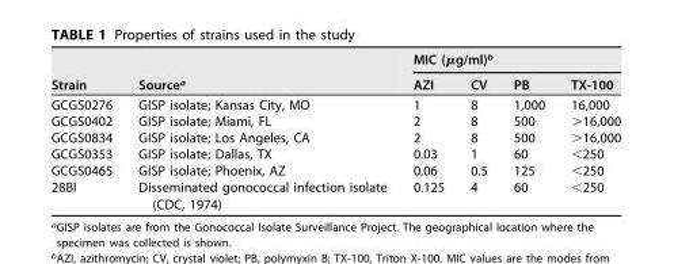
<table><thead><tr><td rowspan="2">Strain</td><td rowspan="2">Source<sup>a</sup></td><td colspan="4">MIC (µg/ml)<sup>b</sup></td></tr><tr><td>AZI</td><td>CV</td><td>PB</td><td>TX-100</td></tr></thead><tbody><tr><td>GCGS0276</td><td>GISP isolate; Kansas City, MO</td><td>1</td><td>8</td><td>1,000</td><td>16,000</td></tr><tr><td>GCGS0402</td><td>GISP isolate; Miami, FL</td><td>2</td><td>8</td><td>500</td><td>&gt;16,000</td></tr><tr><td>GCGS0834</td><td>GISP isolate; Los Angeles, CA</td><td>2</td><td>8</td><td>500</td><td>&gt;16,000</td></tr><tr><td>GCGS0353</td><td>GISP isolate; Dallas, TX</td><td>0.03</td><td>1</td><td>60</td><td>&lt;250</td></tr><tr><td>GCGS0465</td><td>GISP isolate; Phoenix, AZ</td><td>0.06</td><td>0.5</td><td>125</td><td>&lt;250</td></tr><tr><td>28Bl</td><td>Disseminated gonococcal infection isolate (CDC, 1974)</td><td>0.125</td><td>4</td><td>60</td><td>&lt;250</td></tr></tbody></table>